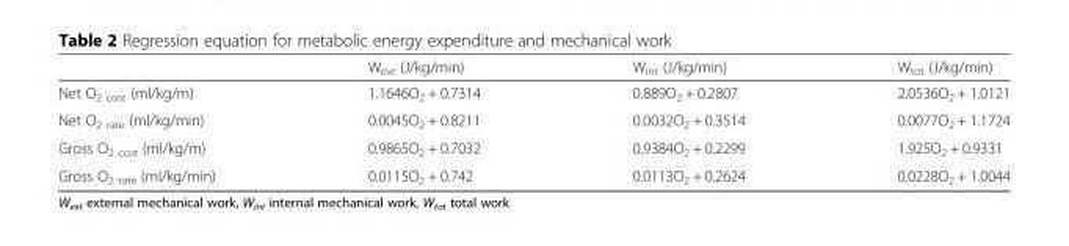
<table><thead><tr><td></td><td>W<sub>ext</sub> (J/kg/min)</td><td>W<sub>int</sub> (J/kg/min)</td><td>W<sub>tot</sub> (J/kg/min)</td></tr></thead><tbody><tr><td>Net O<sub>2 cost</sub> (ml/kg/m)</td><td>1.1646O<sub>2</sub> + 0.7314</td><td>0.889O<sub>2</sub> + 0.2807</td><td>2.0536O<sub>2</sub> + 1.0121</td></tr><tr><td>Net O<sub>2 rate</sub> (ml/kg/min)</td><td>0.0045O<sub>2</sub> + 0.8211</td><td>0.0032O<sub>2</sub> + 0.3514</td><td>0.0077O<sub>2</sub> + 1.1724</td></tr><tr><td>Gross O<sub>2 cost</sub> (ml/kg/m)</td><td>0.9865O<sub>2</sub> + 0.7032</td><td>0.9384O<sub>2</sub> + 0.2299</td><td>1.925O<sub>2</sub> + 0.9331</td></tr><tr><td>Gross O<sub>2 rate</sub> (ml/kg/min)</td><td>0.0115O<sub>2</sub> + 0.742</td><td>0.0113O<sub>2</sub> + 0.2624</td><td>0.0228O<sub>2</sub> + 1.0044</td></tr></tbody></table>